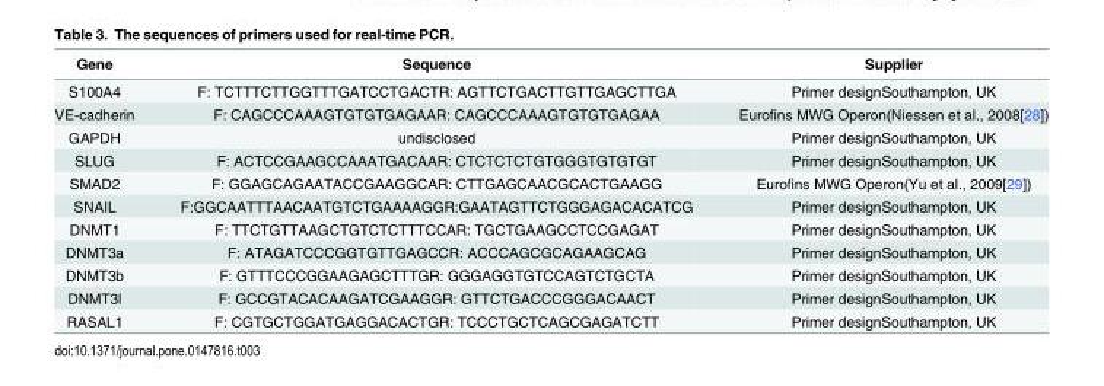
<table><thead><tr><td>Gene</td><td>Sequence</td><td>Supplier</td></tr></thead><tbody><tr><td>S100A4</td><td>F: TCTTTCTTGGTTTGATCCTGACTR: AGTTCTGACTTGTTGAGCTTGA</td><td>Primer designSouthampton, UK</td></tr><tr><td>VE-cadherin</td><td>F: CAGCCCAAAGTGTGTGAGAAR: CAGCCCAAAGTGTGTGAGAA</td><td>Eurofins MWG Operon(Niessen et al., 2008[28])</td></tr><tr><td>GAPDH</td><td>undisclosed</td><td>Primer designSouthampton, UK</td></tr><tr><td>SLUG</td><td>F: ACTCCGAAGCCAAATGACAAR: CTCTCTCTGTGGGTGTGTGT</td><td>Primer designSouthampton, UK</td></tr><tr><td>SMAD2</td><td>F: GGAGCAGAATACCGAAGGCAR: CTTGAGCAACGCACTGAAGG</td><td>Eurofins MWG Operon(Yu et al., 2009[29])</td></tr><tr><td>SNAIL</td><td>F:GGCAATTTAACAATGTCTGAAAAGGR:GAATAGTTCTGGGAGACACATCG</td><td>Primer designSouthampton, UK</td></tr><tr><td>DNMT1</td><td>F: TTCTGTTAAGCTGTCTCTTTCCAR: TGCTGAAGCCTCCGAGAT</td><td>Primer designSouthampton, UK</td></tr><tr><td>DNMT3a</td><td>F: ATAGATCCCGGTGTTGAGCCR: ACCCAGCGCAGAAGCAG</td><td>Primer designSouthampton, UK</td></tr><tr><td>DNMT3b</td><td>F: GTTTCCCGGAAGAGCTTTGR: GGGAGGTGTCCAGTCTGCTA</td><td>Primer designSouthampton, UK</td></tr><tr><td>DNMT3l</td><td>F: GCCGTACACAAGATCGAAGGR: GTTCTGACCCGGGACAACT</td><td>Primer designSouthampton, UK</td></tr><tr><td>RASAL1</td><td>F: CGTGCTGGATGAGGACACTGR: TCCCTGCTCAGCGAGATCTT</td><td>Primer designSouthampton, UK</td></tr></tbody></table>